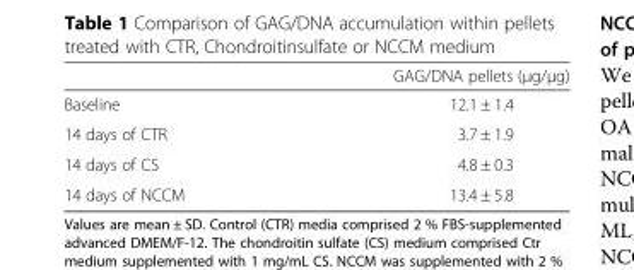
<table><thead><tr><td></td><td>GAG/DNA pellets (μg/μg)</td></tr></thead><tbody><tr><td>Baseline</td><td>12.1 ± 1.4</td></tr><tr><td>14 days of CTR</td><td>3.7 ± 1.9</td></tr><tr><td>14 days of CS</td><td>4.8 ± 0.3</td></tr><tr><td>14 days of NCCM</td><td>13.4 ± 5.8</td></tr></tbody></table>